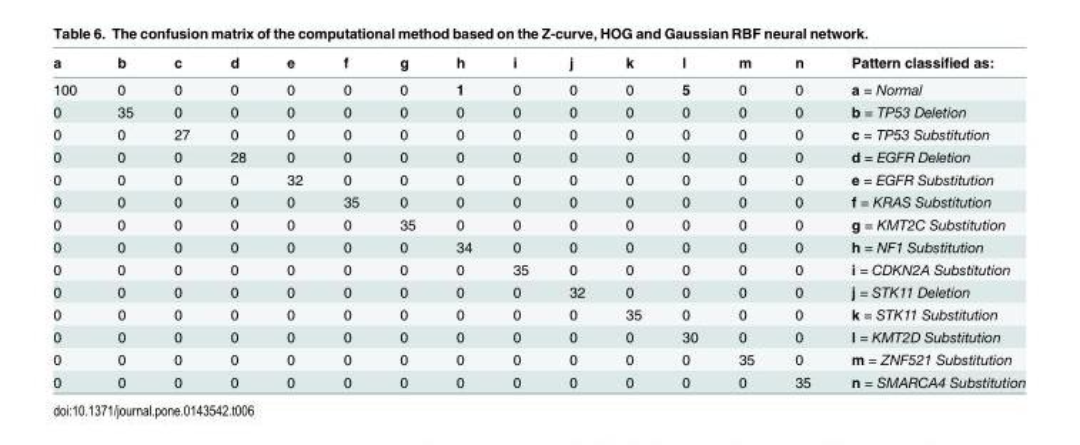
<table><thead><tr><td>a</td><td>b</td><td>c</td><td>d</td><td>e</td><td>f</td><td>g</td><td>h</td><td>i</td><td>j</td><td>k</td><td>l</td><td>m</td><td>n</td><td>Pattern classified as:</td></tr></thead><tbody><tr><td>100</td><td>0</td><td>0</td><td>0</td><td>0</td><td>0</td><td>0</td><td>1</td><td>0</td><td>0</td><td>0</td><td>5</td><td>0</td><td>0</td><td>a = Normal</td></tr><tr><td>0</td><td>35</td><td>0</td><td>0</td><td>0</td><td>0</td><td>0</td><td>0</td><td>0</td><td>0</td><td>0</td><td>0</td><td>0</td><td>0</td><td>b = TP53 Deletion</td></tr><tr><td>0</td><td>0</td><td>27</td><td>0</td><td>0</td><td>0</td><td>0</td><td>0</td><td>0</td><td>0</td><td>0</td><td>0</td><td>0</td><td>0</td><td>c = TP53 Substitution</td></tr><tr><td>0</td><td>0</td><td>0</td><td>28</td><td>0</td><td>0</td><td>0</td><td>0</td><td>0</td><td>0</td><td>0</td><td>0</td><td>0</td><td>0</td><td>d = EGFR Deletion</td></tr><tr><td>0</td><td>0</td><td>0</td><td>0</td><td>32</td><td>0</td><td>0</td><td>0</td><td>0</td><td>0</td><td>0</td><td>0</td><td>0</td><td>0</td><td>e = EGFR Substitution</td></tr><tr><td>0</td><td>0</td><td>0</td><td>0</td><td>0</td><td>35</td><td>0</td><td>0</td><td>0</td><td>0</td><td>0</td><td>0</td><td>0</td><td>0</td><td>f = KRAS Substitution</td></tr><tr><td>0</td><td>0</td><td>0</td><td>0</td><td>0</td><td>0</td><td>35</td><td>0</td><td>0</td><td>0</td><td>0</td><td>0</td><td>0</td><td>0</td><td>g = KMT2C Substitution</td></tr><tr><td>0</td><td>0</td><td>0</td><td>0</td><td>0</td><td>0</td><td>0</td><td>34</td><td>0</td><td>0</td><td>0</td><td>0</td><td>0</td><td>0</td><td>h = NF1 Substitution</td></tr><tr><td>0</td><td>0</td><td>0</td><td>0</td><td>0</td><td>0</td><td>0</td><td>0</td><td>35</td><td>0</td><td>0</td><td>0</td><td>0</td><td>0</td><td>i = CDKN2A Substitution</td></tr><tr><td>0</td><td>0</td><td>0</td><td>0</td><td>0</td><td>0</td><td>0</td><td>0</td><td>0</td><td>32</td><td>0</td><td>0</td><td>0</td><td>0</td><td>j = STK11 Deletion</td></tr><tr><td>0</td><td>0</td><td>0</td><td>0</td><td>0</td><td>0</td><td>0</td><td>0</td><td>0</td><td>0</td><td>35</td><td>0</td><td>0</td><td>0</td><td>k = STK11 Substitution</td></tr><tr><td>0</td><td>0</td><td>0</td><td>0</td><td>0</td><td>0</td><td>0</td><td>0</td><td>0</td><td>0</td><td>0</td><td>30</td><td>0</td><td>0</td><td>l = KMT2D Substitution</td></tr><tr><td>0</td><td>0</td><td>0</td><td>0</td><td>0</td><td>0</td><td>0</td><td>0</td><td>0</td><td>0</td><td>0</td><td>0</td><td>35</td><td>0</td><td>m = ZNF521 Substitution</td></tr><tr><td>0</td><td>0</td><td>0</td><td>0</td><td>0</td><td>0</td><td>0</td><td>0</td><td>0</td><td>0</td><td>0</td><td>0</td><td>0</td><td>35</td><td>n = SMARCA4 Substitution</td></tr></tbody></table>